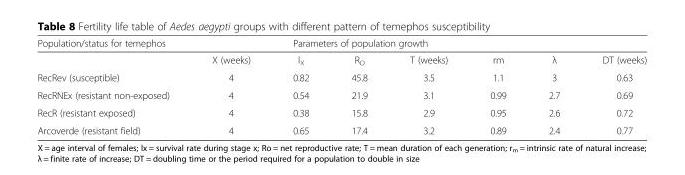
<table><thead><tr><td rowspan="2">Population/status for temephos</td><td rowspan="2">X (weeks)</td><td colspan="6">Parameters of population growth</td></tr><tr><td>l<sub>X</sub></td><td>R<sub>O</sub></td><td>T (weeks)</td><td>rm</td><td>λ</td><td>DT (weeks)</td></tr></thead><tbody><tr><td>RecRev (susceptible)</td><td>4</td><td>0.82</td><td>45.8</td><td>3.5</td><td>1.1</td><td>3</td><td>0.63</td></tr><tr><td>RecRNEx (resistant non-exposed)</td><td>4</td><td>0.54</td><td>21.9</td><td>3.1</td><td>0.99</td><td>2.7</td><td>0.69</td></tr><tr><td>RecR (resistant exposed)</td><td>4</td><td>0.38</td><td>15.8</td><td>2.9</td><td>0.95</td><td>2.6</td><td>0.72</td></tr><tr><td>Arcoverde (resistant field)</td><td>4</td><td>0.65</td><td>17.4</td><td>3.2</td><td>0.89</td><td>2.4</td><td>0.77</td></tr></tbody></table>